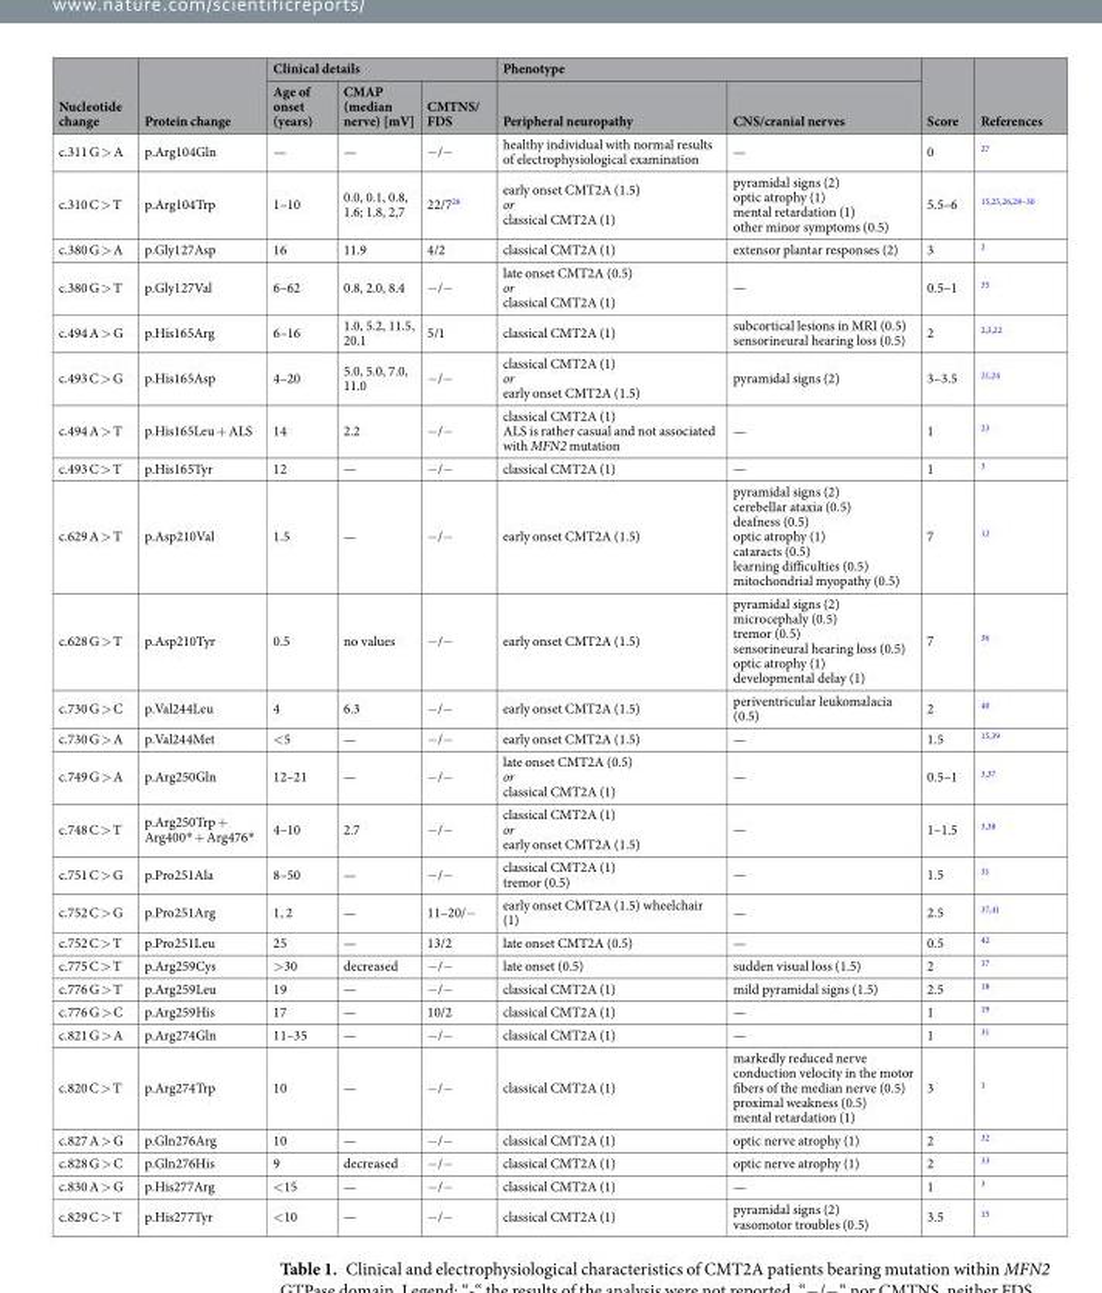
<table><thead><tr><td rowspan="2">Nucleotide change</td><td rowspan="2">Protein change</td><td colspan="3">Clinical details</td><td colspan="2">Phenotype</td><td rowspan="2">Score</td><td rowspan="2">References</td></tr><tr><td>Age of onset (years)</td><td>CMAP (median nerve) [mV]</td><td>CMTNS/ FDS</td><td>Peripheral neuropathy</td><td>CNS/cranial nerves</td></tr></thead><tbody><tr><td>c.311 G &gt; A</td><td>p.Arg104Gln</td><td>—</td><td>—</td><td>−/−</td><td>healthy individual with normal results of electrophysiological examination</td><td>—</td><td>0</td><td><sup>27</sup></td></tr><tr><td>c.310 C &gt; T</td><td>p.Arg104Trp</td><td>1–10</td><td>0.0, 0.1, 0.8, 1.6; 1.8, 2,7</td><td>22/7<sup>26</sup></td><td>early onset CMT2A (1.5) or classical CMT2A (1)</td><td>pyramidal signs (2) optic atrophy (1) mental retardation (1) other minor symptoms (0.5)</td><td>5.5–6</td><td><sup>15,25,26,28–30</sup></td></tr><tr><td>c.380 G &gt; A</td><td>p.Gly127Asp</td><td>16</td><td>11.9</td><td>4/2</td><td>classical CMT2A (1)</td><td>extensor plantar responses (2)</td><td>3</td><td><sup>2</sup></td></tr><tr><td>c.380 G &gt; T</td><td>p.Gly127Val</td><td>6–62</td><td>0.8, 2.0, 8.4</td><td>−/−</td><td>late onset CMT2A (0.5) or classical CMT2A (1)</td><td>—</td><td>0.5–1</td><td><sup>35</sup></td></tr><tr><td>c.494 A &gt; G</td><td>p.His165Arg</td><td>6–16</td><td>1.0, 5.2, 11.5, 20.1</td><td>5/1</td><td>classical CMT2A (1)</td><td>subcortical lesions in MRI (0.5) sensorineural hearing loss (0.5)</td><td>2</td><td><sup>2,3,22</sup></td></tr><tr><td>c.493 C &gt; G</td><td>p.His165Asp</td><td>4–20</td><td>5.0, 5.0, 7.0, 11.0</td><td>−/−</td><td>classical CMT2A (1) or early onset CMT2A (1.5)</td><td>pyramidal signs (2)</td><td>3–3.5</td><td><sup>21,24</sup></td></tr><tr><td>c.494 A &gt; T</td><td>p.His165Leu + ALS</td><td>14</td><td>2.2</td><td>−/−</td><td>classical CMT2A (1) ALS is rather casual and not associated with MFN2 mutation</td><td>—</td><td>1</td><td><sup>23</sup></td></tr><tr><td>c.493 C &gt; T</td><td>p.His165Tyr</td><td>12</td><td>—</td><td>−/−</td><td>classical CMT2A (1)</td><td>—</td><td>1</td><td><sup>3</sup></td></tr><tr><td>c.629 A &gt; T</td><td>p.Asp210Val</td><td>1.5</td><td>—</td><td>−/−</td><td>early onset CMT2A (1.5)</td><td>pyramidal signs (2) cerebellar ataxia (0.5) deafness (0.5) optic atrophy (1) cataracts (0.5) learning difficulties (0.5) mitochondrial myopathy (0.5)</td><td>7</td><td><sup>12</sup></td></tr><tr><td>c.628 G &gt; T</td><td>p.Asp210Tyr</td><td>0.5</td><td>no values</td><td>−/−</td><td>early onset CMT2A (1.5)</td><td>pyramidal signs (2) microcephaly (0.5) tremor (0.5) sensorineural hearing loss (0.5) optic atrophy (1) developmental delay (1)</td><td>7</td><td><sup>36</sup></td></tr><tr><td>c.730 G &gt; C</td><td>p.Val244Leu</td><td>4</td><td>6.3</td><td>−/−</td><td>early onset CMT2A (1.5)</td><td>periventricular leukomalacia (0.5)</td><td>2</td><td><sup>40</sup></td></tr><tr><td>c.730 G &gt; A</td><td>p.Val244Met</td><td>&lt;5</td><td>—</td><td>−/−</td><td>early onset CMT2A (1.5)</td><td>—</td><td>1.5</td><td><sup>15,39</sup></td></tr><tr><td>c.749 G &gt; A</td><td>p.Arg250Gln</td><td>12–21</td><td>—</td><td>−/−</td><td>late onset CMT2A (0.5) or classical CMT2A (1)</td><td>—</td><td>0.5–1</td><td><sup>3,37</sup></td></tr><tr><td>c.748 C &gt; T</td><td>p.Arg250Trp + Arg400* + Arg476*</td><td>4–10</td><td>2.7</td><td>−/−</td><td>classical CMT2A (1) or early onset CMT2A (1.5)</td><td>—</td><td>1–1.5</td><td><sup>3,38</sup></td></tr><tr><td>c.751 C &gt; G</td><td>p.Pro251Ala</td><td>8–50</td><td>—</td><td>−/−</td><td>classical CMT2A (1) tremor (0.5)</td><td>—</td><td>1.5</td><td><sup>31</sup></td></tr><tr><td>c.752 C &gt; G</td><td>p.Pro251Arg</td><td>1, 2</td><td>—</td><td>11–20/−</td><td>early onset CMT2A (1.5) wheelchair (1)</td><td>—</td><td>2.5</td><td><sup>37,41</sup></td></tr><tr><td>c.752 C &gt; T</td><td>p.Pro251Leu</td><td>25</td><td>—</td><td>13/2</td><td>late onset CMT2A (0.5)</td><td>—</td><td>0.5</td><td><sup>42</sup></td></tr><tr><td>c.775 C &gt; T</td><td>p.Arg259Cys</td><td>&gt;30</td><td>decreased</td><td>−/−</td><td>late onset (0.5)</td><td>sudden visual loss (1.5)</td><td>2</td><td><sup>17</sup></td></tr><tr><td>c.776 G &gt; T</td><td>p.Arg259Leu</td><td>19</td><td>—</td><td>−/−</td><td>classical CMT2A (1)</td><td>mild pyramidal signs (1.5)</td><td>2.5</td><td><sup>18</sup></td></tr><tr><td>c.776 G &gt; C</td><td>p.Arg259His</td><td>17</td><td>—</td><td>10/2</td><td>classical CMT2A (1)</td><td>—</td><td>1</td><td><sup>19</sup></td></tr><tr><td>c.821 G &gt; A</td><td>p.Arg274Gln</td><td>11–35</td><td>—</td><td>−/−</td><td>classical CMT2A (1)</td><td>—</td><td>1</td><td><sup>31</sup></td></tr><tr><td>c.820 C &gt; T</td><td>p.Arg274Trp</td><td>10</td><td>—</td><td>−/−</td><td>classical CMT2A (1)</td><td>markedly reduced nerve conduction velocity in the motor fibers of the median nerve (0.5) proximal weakness (0.5) mental retardation (1)</td><td>3</td><td><sup>1</sup></td></tr><tr><td>c.827 A &gt; G</td><td>p.Gln276Arg</td><td>10</td><td>—</td><td>−/−</td><td>classical CMT2A (1)</td><td>optic nerve atrophy (1)</td><td>2</td><td><sup>32</sup></td></tr><tr><td>c.828 G &gt; C</td><td>p.Gln276His</td><td>9</td><td>decreased</td><td>−/−</td><td>classical CMT2A (1)</td><td>optic nerve atrophy (1)</td><td>2</td><td><sup>33</sup></td></tr><tr><td>c.830 A &gt; G</td><td>p.His277Arg</td><td>&lt;15</td><td>—</td><td>−/−</td><td>classical CMT2A (1)</td><td>—</td><td>1</td><td><sup>3</sup></td></tr><tr><td>c.829 C &gt; T</td><td>p.His277Tyr</td><td>&lt;10</td><td>—</td><td>−/−</td><td>classical CMT2A (1)</td><td>pyramidal signs (2) vasomotor troubles (0.5)</td><td>3.5</td><td><sup>15</sup></td></tr></tbody></table>